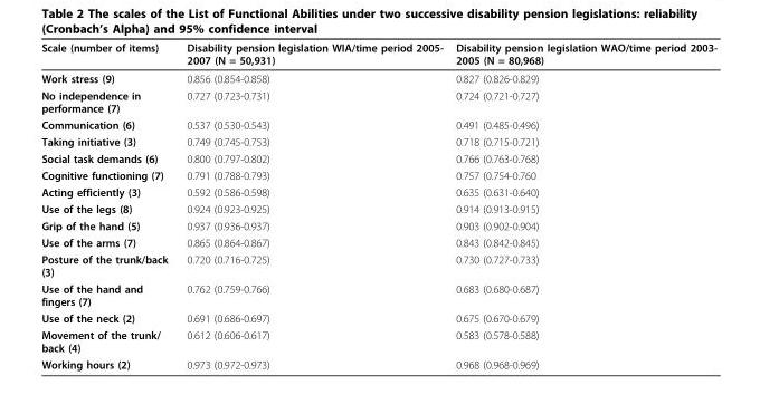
<table><thead><tr><td>Scale (number of items)</td><td>Disability pension legislation WIA/time period 2005- 2007 (N = 50,931)</td><td>Disability pension legislation WAO/time period 2003- 2005 (N = 80,968)</td></tr></thead><tbody><tr><td>Work stress (9)</td><td>0.856 (0.854-0.858)</td><td>0.827 (0.826-0.829)</td></tr><tr><td>No independence in performance (7)</td><td>0.727 (0.723-0.731)</td><td>0.724 (0.721-0.727)</td></tr><tr><td>Communication (6)</td><td>0.537 (0.530-0.543)</td><td>0.491 (0.485-0.496)</td></tr><tr><td>Taking initiative (3)</td><td>0.749 (0.745-0.753)</td><td>0.718 (0.715-0.721)</td></tr><tr><td>Social task demands (6)</td><td>0.800 (0.797-0.802)</td><td>0.766 (0.763-0.768)</td></tr><tr><td>Cognitive functioning (7)</td><td>0.791 (0.788-0.793)</td><td>0.757 (0.754-0.760</td></tr><tr><td>Acting efficiently (3)</td><td>0.592 (0.586-0.598)</td><td>0.635 (0.631-0.640)</td></tr><tr><td>Use of the legs (8)</td><td>0.924 (0.923-0.925)</td><td>0.914 (0.913-0.915)</td></tr><tr><td>Grip of the hand (5)</td><td>0.937 (0.936-0.937)</td><td>0.903 (0.902-0.904)</td></tr><tr><td>Use of the arms (7)</td><td>0.865 (0.864-0.867)</td><td>0.843 (0.842-0.845)</td></tr><tr><td>Posture of the trunk/back (3)</td><td>0.720 (0.716-0.725)</td><td>0.730 (0.727-0.733)</td></tr><tr><td>Use of the hand and fingers (7)</td><td>0.762 (0.759-0.766)</td><td>0.683 (0.680-0.687)</td></tr><tr><td>Use of the neck (2)</td><td>0.691 (0.686-0.697)</td><td>0.675 (0.670-0.679)</td></tr><tr><td>Movement of the trunk/ back (4)</td><td>0.612 (0.606-0.617)</td><td>0.583 (0.578-0.588)</td></tr><tr><td>Working hours (2)</td><td>0.973 (0.972-0.973)</td><td>0.968 (0.968-0.969)</td></tr></tbody></table>